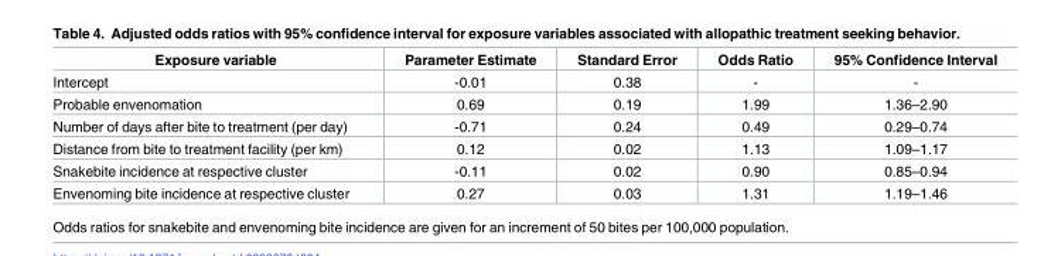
<table><thead><tr><td>Exposure variable</td><td>Parameter Estimate</td><td>Standard Error</td><td>Odds Ratio</td><td>95% Confidence Interval</td></tr></thead><tbody><tr><td>Intercept</td><td>-0.01</td><td>0.38</td><td>-</td><td>-</td></tr><tr><td>Probable envenomation</td><td>0.69</td><td>0.19</td><td>1.99</td><td>1.36–2.90</td></tr><tr><td>Number of days after bite to treatment (per day)</td><td>-0.71</td><td>0.24</td><td>0.49</td><td>0.29–0.74</td></tr><tr><td>Distance from bite to treatment facility (per km)</td><td>0.12</td><td>0.02</td><td>1.13</td><td>1.09–1.17</td></tr><tr><td>Snakebite incidence at respective cluster</td><td>-0.11</td><td>0.02</td><td>0.90</td><td>0.85–0.94</td></tr><tr><td>Envenoming bite incidence at respective cluster</td><td>0.27</td><td>0.03</td><td>1.31</td><td>1.19–1.46</td></tr></tbody></table>